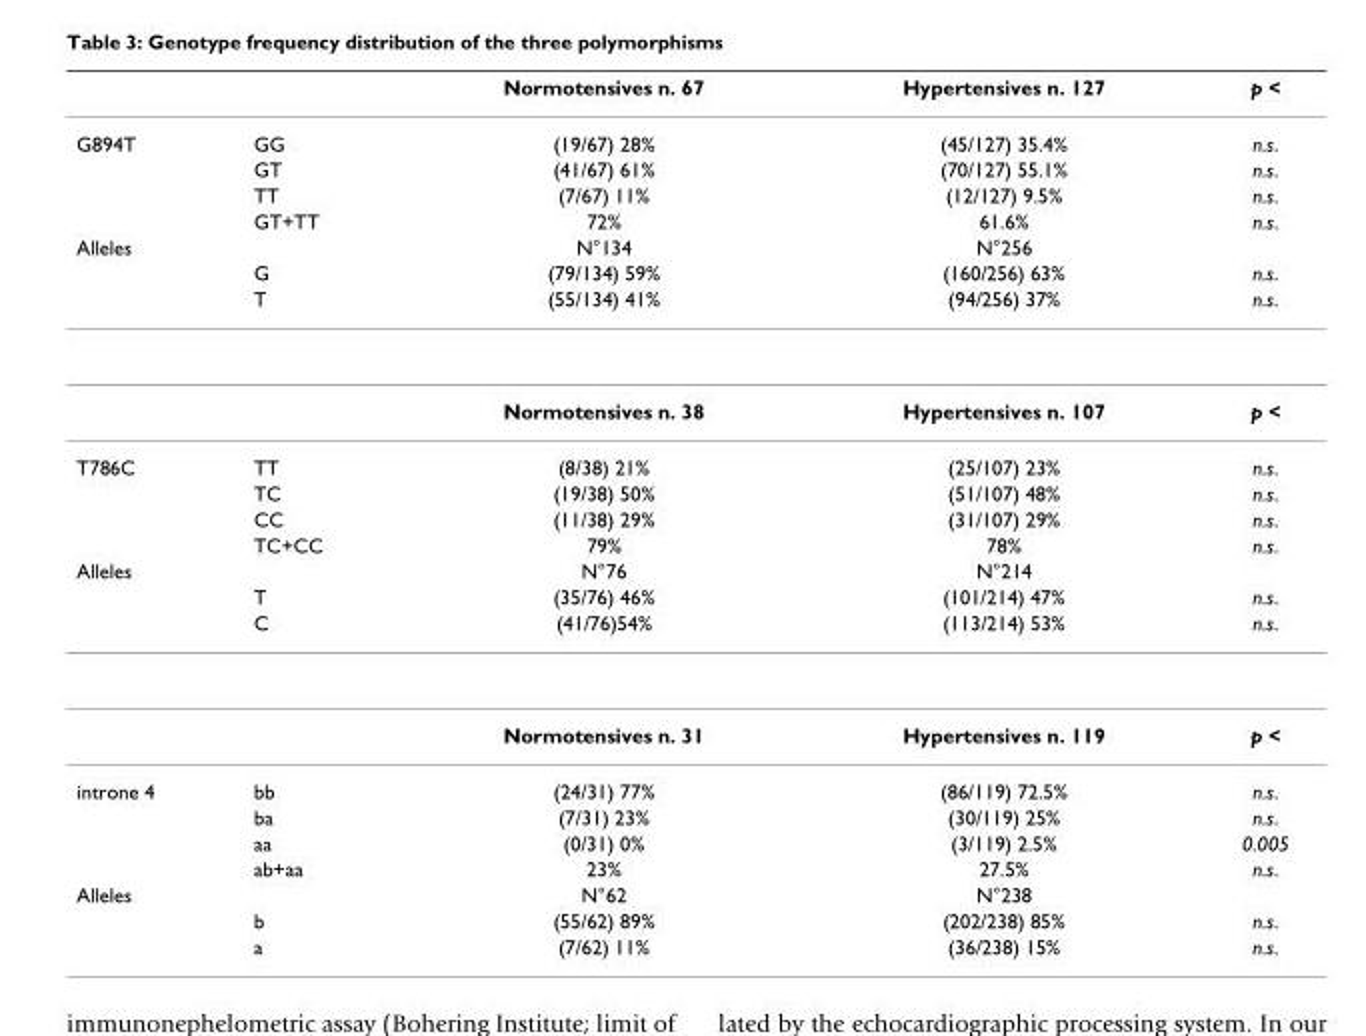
<table><thead><tr><td></td><td></td><td>Normotensives n. 67</td><td>Hypertensives n. 127</td><td>p &lt;</td></tr></thead><tbody><tr><td rowspan="4">G894T</td><td>GG</td><td>(19/67) 28%</td><td>(45/127) 35.4%</td><td>n.s.</td></tr><tr><td>GT</td><td>(41/67) 61%</td><td>(70/127) 55.1%</td><td>n.s.</td></tr><tr><td>TT</td><td>(7/67) 11%</td><td>(12/127) 9.5%</td><td>n.s.</td></tr><tr><td>GT+TT</td><td>72%</td><td>61.6%</td><td>n.s.</td></tr><tr><td rowspan="4">Alleles</td><td></td><td>N°134</td><td>N°256</td><td></td></tr><tr><td>G</td><td>(79/134) 59%</td><td>(160/256) 63%</td><td>n.s.</td></tr><tr><td>T</td><td>(55/134) 41%</td><td>(94/256) 37%</td><td>n.s.</td></tr><tr><td></td><td>Normotensives n. 38</td><td>Hypertensives n. 107</td><td>p &lt;</td></tr><tr><td rowspan="4">T786C</td><td>TT</td><td>(8/38) 21%</td><td>(25/107) 23%</td><td>n.s.</td></tr><tr><td>TC</td><td>(19/38) 50%</td><td>(51/107) 48%</td><td>n.s.</td></tr><tr><td>CC</td><td>(11/38) 29%</td><td>(31/107) 29%</td><td>n.s.</td></tr><tr><td>TC+CC</td><td>79%</td><td>78%</td><td>n.s.</td></tr><tr><td rowspan="4">Alleles</td><td></td><td>N°76</td><td>N°214</td><td></td></tr><tr><td>T</td><td>(35/76) 46%</td><td>(101/214) 47%</td><td>n.s.</td></tr><tr><td>C</td><td>(41/76)54%</td><td>(113/214) 53%</td><td>n.s.</td></tr><tr><td></td><td>Normotensives n. 31</td><td>Hypertensives n. 119</td><td>p &lt;</td></tr><tr><td rowspan="4">introne 4</td><td>bb</td><td>(24/31) 77%</td><td>(86/119) 72.5%</td><td>n.s.</td></tr><tr><td>ba</td><td>(7/31) 23%</td><td>(30/119) 25%</td><td>n.s.</td></tr><tr><td>aa</td><td>(0/31) 0%</td><td>(3/119) 2.5%</td><td>0.005</td></tr><tr><td>ab+aa</td><td>23%</td><td>27.5%</td><td>n.s.</td></tr><tr><td rowspan="3">Alleles</td><td></td><td>N°62</td><td>N°238</td><td></td></tr><tr><td>b</td><td>(55/62) 89%</td><td>(202/238) 85%</td><td>n.s.</td></tr><tr><td>a</td><td>(7/62) 11%</td><td>(36/238) 15%</td><td>n.s.</td></tr></tbody></table>